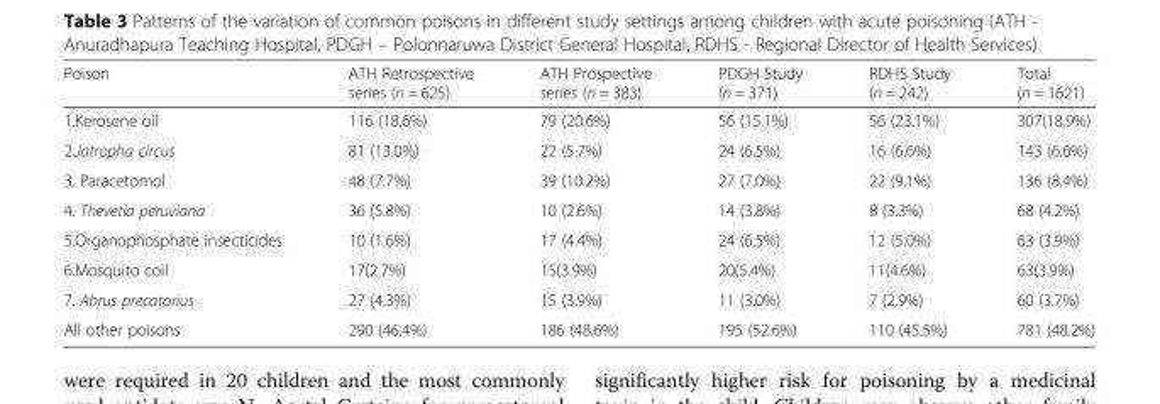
<table><thead><tr><td>Poison</td><td>ATH Retrospective series (n = 625)</td><td>ATH Prospective series (n = 383)</td><td>PDGH Study (n = 371)</td><td>RDHS Study (n = 242)</td><td>Total (n = 1621)</td></tr></thead><tbody><tr><td>1.Kerosene oil</td><td>116 (18.6%)</td><td>79 (20.6%)</td><td>56 (15.1%)</td><td>56 (23.1%)</td><td>307(18.9%)</td></tr><tr><td>2.Jatropha circus</td><td>81 (13.0%)</td><td>22 (5.7%)</td><td>24 (6.5%)</td><td>16 (6.6%)</td><td>143 (6.6%)</td></tr><tr><td>3. Paracetomol</td><td>48 (7.7%)</td><td>39 (10.2%)</td><td>27 (7.0%)</td><td>22 (9.1%)</td><td>136 (8.4%)</td></tr><tr><td>4. Thevetia peruviana</td><td>36 (5.8%)</td><td>10 (2.6%)</td><td>14 (3.8%)</td><td>8 (3.3%)</td><td>68 (4.2%)</td></tr><tr><td>5.Organophosphate insecticides</td><td>10 (1.6%)</td><td>17 (4.4%)</td><td>24 (6.5%)</td><td>12 (5.0%)</td><td>63 (3.9%)</td></tr><tr><td>6.Mosquito coil</td><td>17(2.7%)</td><td>15(3.9%)</td><td>20(5.4%)</td><td>11(4.6%)</td><td>63(3.9%)</td></tr><tr><td>7. Abrus precatorius</td><td>27 (4.3%)</td><td>15 (3.9%)</td><td>11 (3.0%)</td><td>7 (2.9%)</td><td>60 (3.7%)</td></tr><tr><td>All other poisons</td><td>290 (46.4%)</td><td>186 (48.6%)</td><td>195 (52.6%)</td><td>110 (45.5%)</td><td>781 (48.2%)</td></tr></tbody></table>